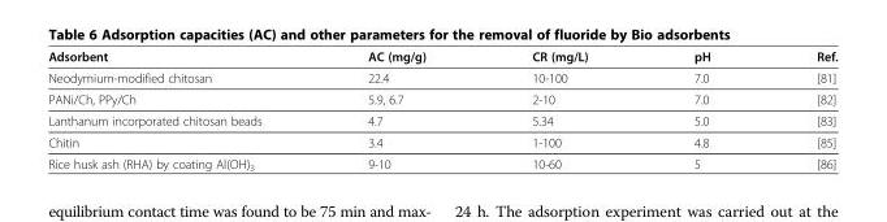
<table><thead><tr><td>Adsorbent</td><td>AC (mg/g)</td><td>CR (mg/L)</td><td>pH</td><td>Ref.</td></tr></thead><tbody><tr><td>Neodymium-modified chitosan</td><td>22.4</td><td>10-100</td><td>7.0</td><td>[81]</td></tr><tr><td>PANi/Ch, PPy/Ch</td><td>5.9, 6.7</td><td>2-10</td><td>7.0</td><td>[82]</td></tr><tr><td>Lanthanum incorporated chitosan beads</td><td>4.7</td><td>5.34</td><td>5.0</td><td>[83]</td></tr><tr><td>Chitin</td><td>3.4</td><td>1-100</td><td>4.8</td><td>[85]</td></tr><tr><td>Rice husk ash (RHA) by coating Al(OH)<sub>3</sub></td><td>9-10</td><td>10-60</td><td>5</td><td>[86]</td></tr></tbody></table>